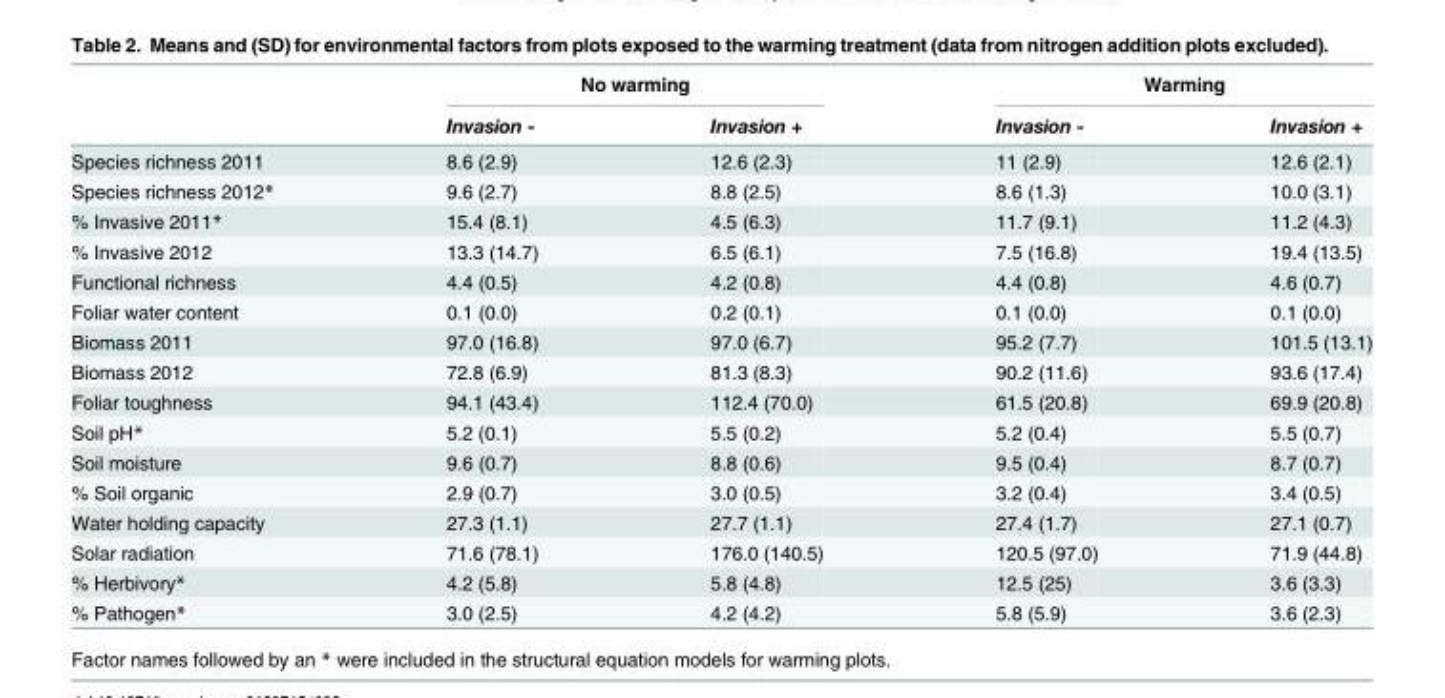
<table><thead><tr><td rowspan="2"></td><td colspan="2">No warming</td><td colspan="2">Warming</td></tr><tr><td>Invasion -</td><td>Invasion +</td><td>Invasion -</td><td>Invasion +</td></tr></thead><tbody><tr><td>Species richness 2011</td><td>8.6 (2.9)</td><td>12.6 (2.3)</td><td>11 (2.9)</td><td>12.6 (2.1)</td></tr><tr><td>Species richness 2012*</td><td>9.6 (2.7)</td><td>8.8 (2.5)</td><td>8.6 (1.3)</td><td>10.0 (3.1)</td></tr><tr><td>% Invasive 2011*</td><td>15.4 (8.1)</td><td>4.5 (6.3)</td><td>11.7 (9.1)</td><td>11.2 (4.3)</td></tr><tr><td>% Invasive 2012</td><td>13.3 (14.7)</td><td>6.5 (6.1)</td><td>7.5 (16.8)</td><td>19.4 (13.5)</td></tr><tr><td>Functional richness</td><td>4.4 (0.5)</td><td>4.2 (0.8)</td><td>4.4 (0.8)</td><td>4.6 (0.7)</td></tr><tr><td>Foliar water content</td><td>0.1 (0.0)</td><td>0.2 (0.1)</td><td>0.1 (0.0)</td><td>0.1 (0.0)</td></tr><tr><td>Biomass 2011</td><td>97.0 (16.8)</td><td>97.0 (6.7)</td><td>95.2 (7.7)</td><td>101.5 (13.1)</td></tr><tr><td>Biomass 2012</td><td>72.8 (6.9)</td><td>81.3 (8.3)</td><td>90.2 (11.6)</td><td>93.6 (17.4)</td></tr><tr><td>Foliar toughness</td><td>94.1 (43.4)</td><td>112.4 (70.0)</td><td>61.5 (20.8)</td><td>69.9 (20.8)</td></tr><tr><td>Soil pH*</td><td>5.2 (0.1)</td><td>5.5 (0.2)</td><td>5.2 (0.4)</td><td>5.5 (0.7)</td></tr><tr><td>Soil moisture</td><td>9.6 (0.7)</td><td>8.8 (0.6)</td><td>9.5 (0.4)</td><td>8.7 (0.7)</td></tr><tr><td>% Soil organic</td><td>2.9 (0.7)</td><td>3.0 (0.5)</td><td>3.2 (0.4)</td><td>3.4 (0.5)</td></tr><tr><td>Water holding capacity</td><td>27.3 (1.1)</td><td>27.7 (1.1)</td><td>27.4 (1.7)</td><td>27.1 (0.7)</td></tr><tr><td>Solar radiation</td><td>71.6 (78.1)</td><td>176.0 (140.5)</td><td>120.5 (97.0)</td><td>71.9 (44.8)</td></tr><tr><td>% Herbivory*</td><td>4.2 (5.8)</td><td>5.8 (4.8)</td><td>12.5 (25)</td><td>3.6 (3.3)</td></tr><tr><td>% Pathogen*</td><td>3.0 (2.5)</td><td>4.2 (4.2)</td><td>5.8 (5.9)</td><td>3.6 (2.3)</td></tr></tbody></table>